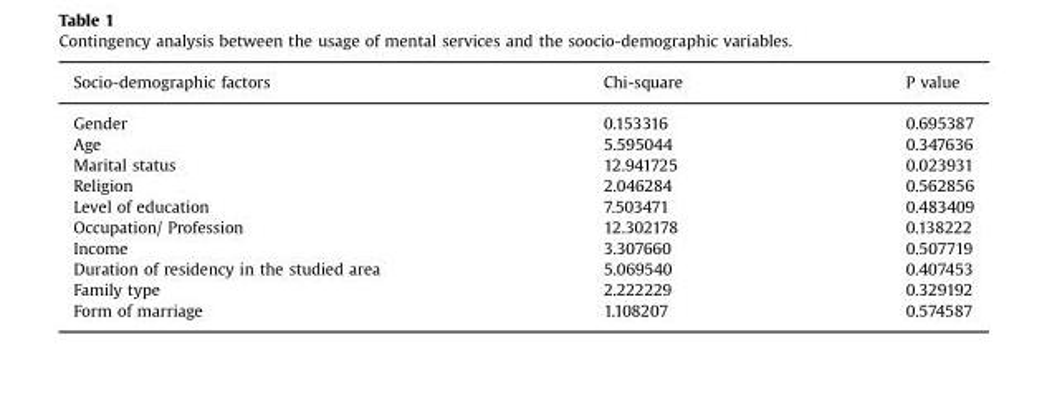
<table><thead><tr><td>Socio-demographic factors</td><td>Chi-square</td><td>P value</td></tr></thead><tbody><tr><td>Gender</td><td>0.153316</td><td>0.695387</td></tr><tr><td>Age</td><td>5.595044</td><td>0.347636</td></tr><tr><td>Marital status</td><td>12.941725</td><td>0.023931</td></tr><tr><td>Religion</td><td>2.046284</td><td>0.562856</td></tr><tr><td>Level of education</td><td>7.503471</td><td>0.483409</td></tr><tr><td>Occupation/ Profession</td><td>12.302178</td><td>0.138222</td></tr><tr><td>Income</td><td>3.307660</td><td>0.507719</td></tr><tr><td>Duration of residency in the studied area</td><td>5.069540</td><td>0.407453</td></tr><tr><td>Family type</td><td>2.222229</td><td>0.329192</td></tr><tr><td>Form of marriage</td><td>1.108207</td><td>0.574587</td></tr></tbody></table>